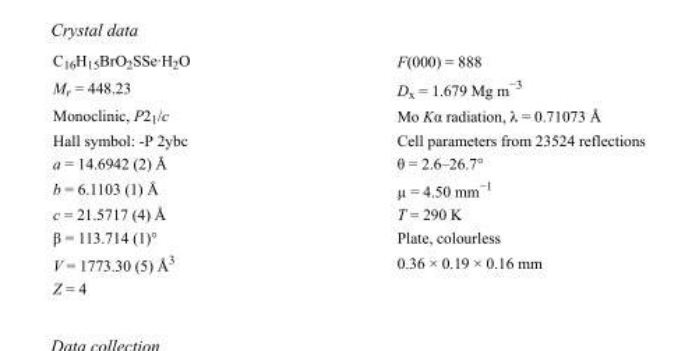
<table><tbody><tr><td>C<sub>16</sub>H<sub>15</sub>BrO<sub>2</sub>SSe·H<sub>2</sub>O</td><td>F(000) = 888</td></tr><tr><td>M<sub>r</sub> = 448.23</td><td>D<sub>x</sub> = 1.679 Mg m<sup>−3</sup></td></tr><tr><td>Monoclinic, P2<sub>1</sub>/c</td><td>Mo Kα radiation, λ = 0.71073 Å</td></tr><tr><td>Hall symbol: -P 2ybc</td><td>Cell parameters from 23524 reflections</td></tr><tr><td>a = 14.6942 (2) Å</td><td>θ = 2.6–26.7°</td></tr><tr><td>b = 6.1103 (1) Å</td><td>µ = 4.50 mm<sup>−1</sup></td></tr><tr><td>c = 21.5717 (4) Å</td><td>T = 290 K</td></tr><tr><td>β = 113.714 (1)°</td><td>Plate, colourless</td></tr><tr><td>V = 1773.30 (5) Å<sup>3</sup></td><td>0.36 × 0.19 × 0.16 mm</td></tr><tr><td>Z = 4</td><td></td></tr></tbody></table>